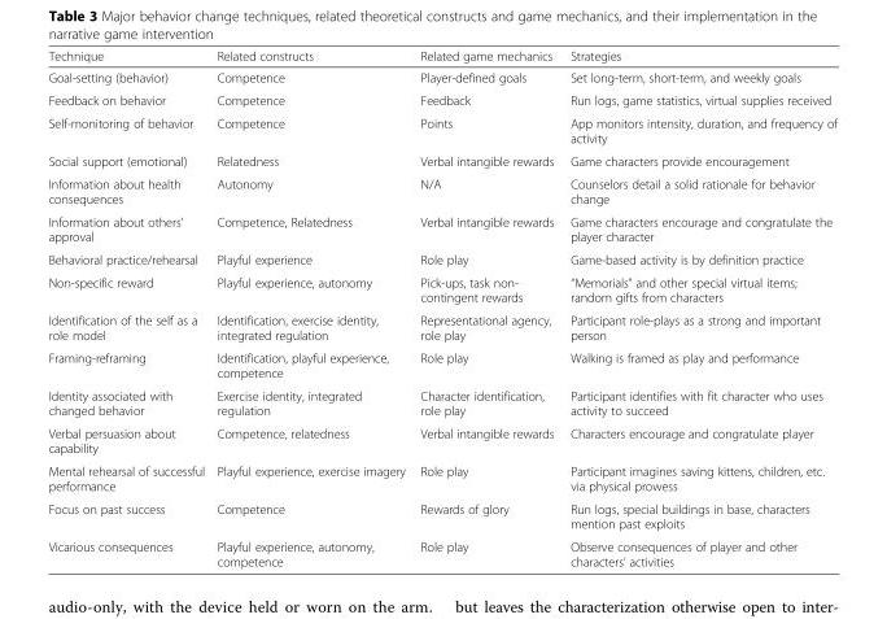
<table><thead><tr><td>Technique</td><td>Related constructs</td><td>Related game mechanics</td><td>Strategies</td></tr></thead><tbody><tr><td>Goal-setting (behavior)</td><td>Competence</td><td>Player-defined goals</td><td>Set long-term, short-term, and weekly goals</td></tr><tr><td>Feedback on behavior</td><td>Competence</td><td>Feedback</td><td>Run logs, game statistics, virtual supplies received</td></tr><tr><td>Self-monitoring of behavior</td><td>Competence</td><td>Points</td><td>App monitors intensity, duration, and frequency of activity</td></tr><tr><td>Social support (emotional)</td><td>Relatedness</td><td>Verbal intangible rewards</td><td>Game characters provide encouragement</td></tr><tr><td>Information about health consequences</td><td>Autonomy</td><td>N/A</td><td>Counselors detail a solid rationale for behavior change</td></tr><tr><td>Information about others’ approval</td><td>Competence, Relatedness</td><td>Verbal intangible rewards</td><td>Game characters encourage and congratulate the player character</td></tr><tr><td>Behavioral practice/rehearsal</td><td>Playful experience</td><td>Role play</td><td>Game-based activity is by definition practice</td></tr><tr><td>Non-specific reward</td><td>Playful experience, autonomy</td><td>Pick-ups, task non- contingent rewards</td><td>“Memorials” and other special virtual items; random gifts from characters</td></tr><tr><td>Identification of the self as a role model</td><td>Identification, exercise identity, integrated regulation</td><td>Representational agency, role play</td><td>Participant role-plays as a strong and important person</td></tr><tr><td>Framing-reframing</td><td>Identification, playful experience, competence</td><td>Role play</td><td>Walking is framed as play and performance</td></tr><tr><td>Identity associated with changed behavior</td><td>Exercise identity, integrated regulation</td><td>Character identification, role play</td><td>Participant identifies with fit character who uses activity to succeed</td></tr><tr><td>Verbal persuasion about capability</td><td>Competence, relatedness</td><td>Verbal intangible rewards</td><td>Characters encourage and congratulate player</td></tr><tr><td>Mental rehearsal of successful performance</td><td>Playful experience, exercise imagery</td><td>Role play</td><td>Participant imagines saving kittens, children, etc. via physical prowess</td></tr><tr><td>Focus on past success</td><td>Competence</td><td>Rewards of glory</td><td>Run logs, special buildings in base, characters mention past exploits</td></tr><tr><td>Vicarious consequences</td><td>Playful experience, autonomy, competence</td><td>Role play</td><td>Observe consequences of player and other characters’ activities</td></tr></tbody></table>